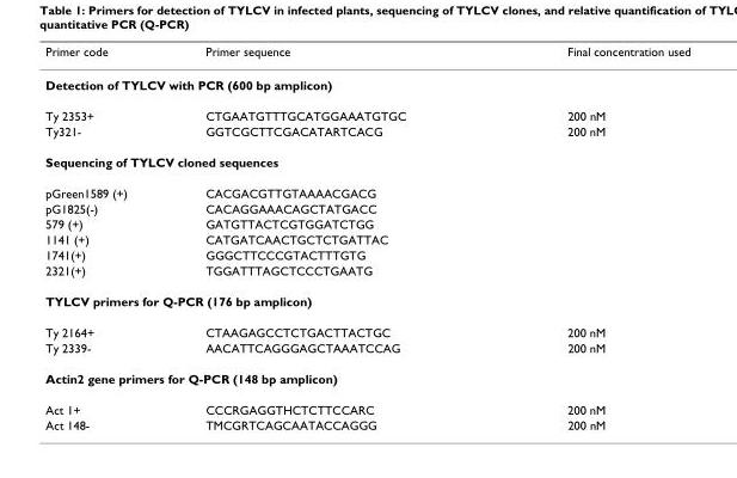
<table><thead><tr><td>Primer code</td><td>Primer sequence</td><td>Final concentration used</td></tr></thead><tbody><tr><td colspan="3">Detection of TYLCV with PCR (600 bp amplicon)</td></tr><tr><td>Ty 2353+</td><td>CTGAATGTTTGCATGGAAATGTGC</td><td>200 nM</td></tr><tr><td>Ty321-</td><td>GGTCGCTTCGACATARTCACG</td><td>200 nM</td></tr><tr><td colspan="3">Sequencing of TYLCV cloned sequences</td></tr><tr><td>pGreen1589 (+)</td><td>CACGACGTTGTAAAACGACG</td><td></td></tr><tr><td>pG1825(-)</td><td>CACAGGAAACAGCTATGACC</td><td></td></tr><tr><td>579 (+)</td><td>GATGTTACTCGTGGATCTGG</td><td></td></tr><tr><td>1141 (+)</td><td>CATGATCAACTGCTCTGATTAC</td><td></td></tr><tr><td>1741(+)</td><td>GGGCTTCCCGTACTTTGTG</td><td></td></tr><tr><td>2321(+)</td><td>TGGATTTAGCTCCCTGAATG</td><td></td></tr><tr><td colspan="3">TYLCV primers for Q-PCR (176 bp amplicon)</td></tr><tr><td>Ty 2164+</td><td>CTAAGAGCCTCTGACTTACTGC</td><td>200 nM</td></tr><tr><td>Ty 2339-</td><td>AACATTCAGGGAGCTAAATCCAG</td><td>200 nM</td></tr><tr><td colspan="3">Actin2 gene primers for Q-PCR (148 bp amplicon)</td></tr><tr><td>Act 1+</td><td>CCCRGAGGTHCTCTTCCARC</td><td>200 nM</td></tr><tr><td>Act 148-</td><td>TMCGRTCAGCAATACCAGGG</td><td>200 nM</td></tr></tbody></table>